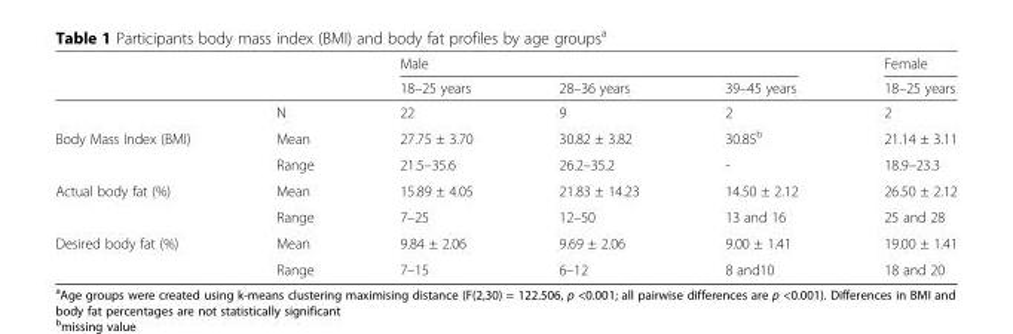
<table><thead><tr><td rowspan="2"></td><td rowspan="2"></td><td colspan="3">Male</td><td rowspan="2">Female 18–25 years</td></tr><tr><td>18–25 years</td><td>28–36 years</td><td>39–45 years</td></tr></thead><tbody><tr><td></td><td>N</td><td>22</td><td>9</td><td>2</td><td>2</td></tr><tr><td rowspan="2">Body Mass Index (BMI)</td><td>Mean</td><td>27.75 ± 3.70</td><td>30.82 ± 3.82</td><td>30.85<sup>b</sup></td><td>21.14 ± 3.11</td></tr><tr><td>Range</td><td>21.5–35.6</td><td>26.2–35.2</td><td>-</td><td>18.9–23.3</td></tr><tr><td rowspan="2">Actual body fat (%)</td><td>Mean</td><td>15.89 ± 4.05</td><td>21.83 ± 14.23</td><td>14.50 ± 2.12</td><td>26.50 ± 2.12</td></tr><tr><td>Range</td><td>7–25</td><td>12–50</td><td>13 and 16</td><td>25 and 28</td></tr><tr><td rowspan="2">Desired body fat (%)</td><td>Mean</td><td>9.84 ± 2.06</td><td>9.69 ± 2.06</td><td>9.00 ± 1.41</td><td>19.00 ± 1.41</td></tr><tr><td>Range</td><td>7–15</td><td>6–12</td><td>8 and10</td><td>18 and 20</td></tr></tbody></table>